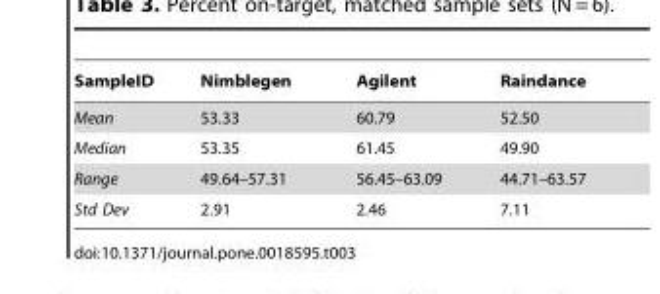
<table><thead><tr><td>SampleID</td><td>Nimblegen</td><td>Agilent</td><td>Raindance</td></tr></thead><tbody><tr><td>Mean</td><td>53.33</td><td>60.79</td><td>52.50</td></tr><tr><td>Median</td><td>53.35</td><td>61.45</td><td>49.90</td></tr><tr><td>Range</td><td>49.64–57.31</td><td>56.45–63.09</td><td>44.71–63.57</td></tr><tr><td>Std Dev</td><td>2.91</td><td>2.46</td><td>7.11</td></tr></tbody></table>